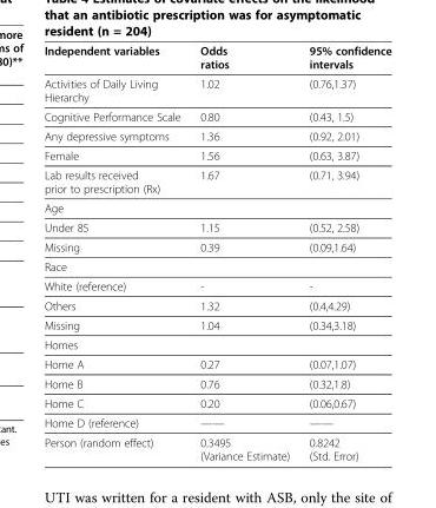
<table><thead><tr><td>Independent variables</td><td>Odds ratios</td><td>95% confidence intervals</td></tr></thead><tbody><tr><td>Activities of Daily Living Hierarchy</td><td>1.02</td><td>(0.76,1.37)</td></tr><tr><td>Cognitive Performance Scale</td><td>0.80</td><td>(0.43, 1.5)</td></tr><tr><td>Any depressive symptoms</td><td>1.36</td><td>(0.92, 2.01)</td></tr><tr><td>Female</td><td>1.56</td><td>(0.63, 3.87)</td></tr><tr><td>Lab results received prior to prescription (Rx)</td><td>1.67</td><td>(0.71, 3.94)</td></tr><tr><td colspan="3">Age</td></tr><tr><td>Under 85</td><td>1.15</td><td>(0.52, 2.58)</td></tr><tr><td>Missing</td><td>0.39</td><td>(0.09,1.64)</td></tr><tr><td colspan="3">Race</td></tr><tr><td>White (reference)</td><td>-</td><td>-</td></tr><tr><td>Others</td><td>1.32</td><td>(0.4,4.29)</td></tr><tr><td>Missing</td><td>1.04</td><td>(0.34,3.18)</td></tr><tr><td colspan="3">Homes</td></tr><tr><td>Home A</td><td>0.27</td><td>(0.07,1.07)</td></tr><tr><td>Home B</td><td>0.76</td><td>(0.32,1.8)</td></tr><tr><td>Home C</td><td>0.20</td><td>(0.06,0.67)</td></tr><tr><td>Home D (reference)</td><td>——</td><td>——</td></tr><tr><td>Person (random effect)</td><td>0.3495 (Variance Estimate)</td><td>0.8242 (Std. Error)</td></tr></tbody></table>